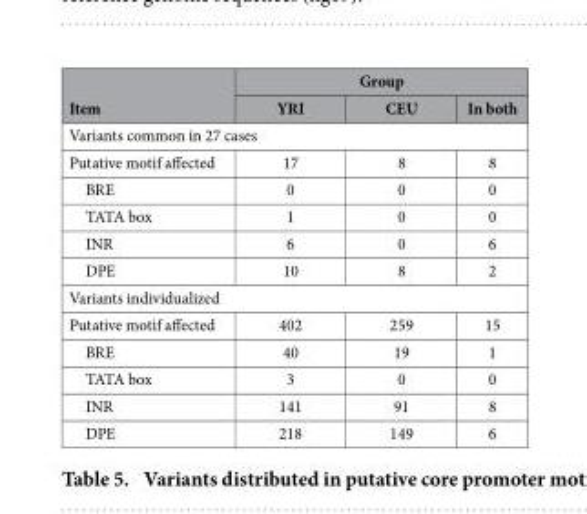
<table><thead><tr><td rowspan="2">Item</td><td colspan="3">Group</td></tr><tr><td>YRI</td><td>CEU</td><td>In both</td></tr></thead><tbody><tr><td colspan="4">Variants common in 27 cases</td></tr><tr><td>Putative motif affected</td><td>17</td><td>8</td><td>8</td></tr><tr><td>BRE</td><td>0</td><td>0</td><td>0</td></tr><tr><td>TATA box</td><td>1</td><td>0</td><td>0</td></tr><tr><td>INR</td><td>6</td><td>0</td><td>6</td></tr><tr><td>DPE</td><td>10</td><td>8</td><td>2</td></tr><tr><td colspan="4">Variants individualized</td></tr><tr><td>Putative motif affected</td><td>402</td><td>259</td><td>15</td></tr><tr><td>BRE</td><td>40</td><td>19</td><td>1</td></tr><tr><td>TATA box</td><td>3</td><td>0</td><td>0</td></tr><tr><td>INR</td><td>141</td><td>91</td><td>8</td></tr><tr><td>DPE</td><td>218</td><td>149</td><td>6</td></tr></tbody></table>